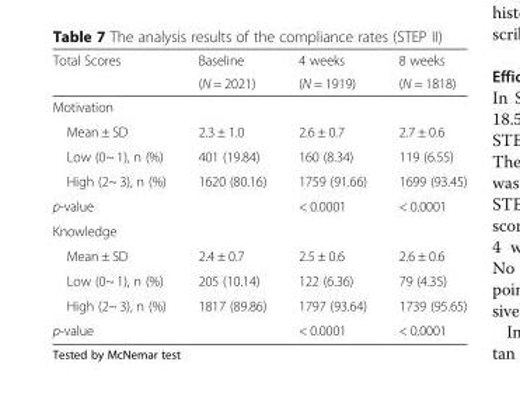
<table><thead><tr><td rowspan="2">Total Scores</td><td rowspan="2">Baseline (N = 2021)</td><td rowspan="2">4 weeks (N = 1919)</td><td rowspan="2">8 weeks (N = 1818)</td></tr><tr></tr></thead><tbody><tr><td colspan="4">Motivation</td></tr><tr><td>Mean ± SD</td><td>2.3 ± 1.0</td><td>2.6 ± 0.7</td><td>2.7 ± 0.6</td></tr><tr><td>Low (0~ 1), n (%)</td><td>401 (19.84)</td><td>160 (8.34)</td><td>119 (6.55)</td></tr><tr><td>High (2~ 3), n (%)</td><td>1620 (80.16)</td><td>1759 (91.66)</td><td>1699 (93.45)</td></tr><tr><td>p-value</td><td></td><td>&lt; 0.0001</td><td>&lt; 0.0001</td></tr><tr><td colspan="4">Knowledge</td></tr><tr><td>Mean ± SD</td><td>2.4 ± 0.7</td><td>2.5 ± 0.6</td><td>2.6 ± 0.6</td></tr><tr><td>Low (0~ 1), n (%)</td><td>205 (10.14)</td><td>122 (6.36)</td><td>79 (4.35)</td></tr><tr><td>High (2~ 3), n (%)</td><td>1817 (89.86)</td><td>1797 (93.64)</td><td>1739 (95.65)</td></tr><tr><td>p-value</td><td></td><td>&lt; 0.0001</td><td>&lt; 0.0001</td></tr></tbody></table>